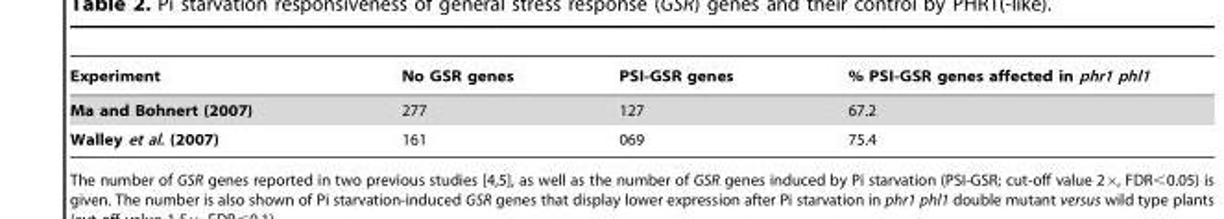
<table><thead><tr><td>Experiment</td><td>No GSR genes</td><td>PSI-GSR genes</td><td>% PSI-GSR genes affected in phr1 phl1</td></tr></thead><tbody><tr><td>Ma and Bohnert (2007)</td><td>277</td><td>127</td><td>67.2</td></tr><tr><td>Walley et al. (2007)</td><td>161</td><td>069</td><td>75.4</td></tr></tbody></table>